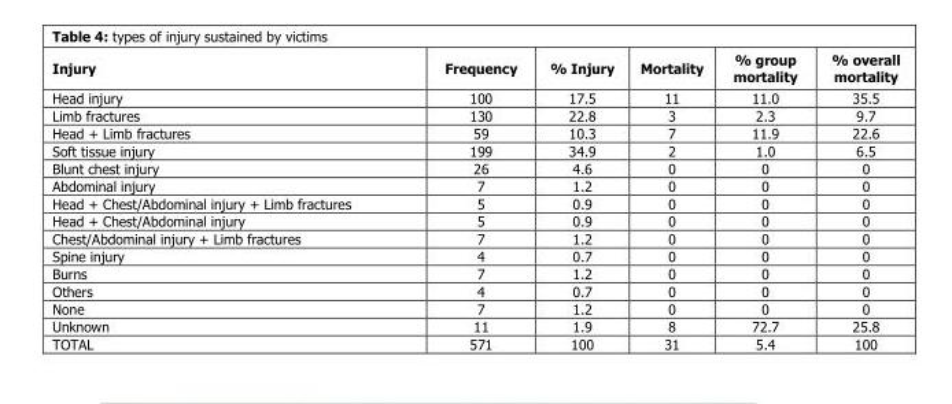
<table><thead><tr><td>Injury</td><td>Frequency</td><td>% Injury</td><td>Mortality</td><td>% group mortality</td><td>% overall mortality</td></tr></thead><tbody><tr><td>Head injury</td><td>100</td><td>17.5</td><td>11</td><td>11.0</td><td>35.5</td></tr><tr><td>Limb fractures</td><td>130</td><td>22.8</td><td>3</td><td>2.3</td><td>9.7</td></tr><tr><td>Head + Limb fractures</td><td>59</td><td>10.3</td><td>7</td><td>11.9</td><td>22.6</td></tr><tr><td>Soft tissue injury</td><td>199</td><td>34.9</td><td>2</td><td>1.0</td><td>6.5</td></tr><tr><td>Blunt chest injury</td><td>26</td><td>4.6</td><td>0</td><td>0</td><td>0</td></tr><tr><td>Abdominal injury</td><td>7</td><td>1.2</td><td>0</td><td>0</td><td>0</td></tr><tr><td>Head + Chest/Abdominal injury + Limb fractures</td><td>5</td><td>0.9</td><td>0</td><td>0</td><td>0</td></tr><tr><td>Head + Chest/Abdominal injury</td><td>5</td><td>0.9</td><td>0</td><td>0</td><td>0</td></tr><tr><td>Chest/Abdominal injury + Limb fractures</td><td>7</td><td>1.2</td><td>0</td><td>0</td><td>0</td></tr><tr><td>Spine injury</td><td>4</td><td>0.7</td><td>0</td><td>0</td><td>0</td></tr><tr><td>Burns</td><td>7</td><td>1.2</td><td>0</td><td>0</td><td>0</td></tr><tr><td>Others</td><td>4</td><td>0.7</td><td>0</td><td>0</td><td>0</td></tr><tr><td>None</td><td>7</td><td>1.2</td><td>0</td><td>0</td><td>0</td></tr><tr><td>Unknown</td><td>11</td><td>1.9</td><td>8</td><td>72.7</td><td>25.8</td></tr><tr><td>TOTAL</td><td>571</td><td>100</td><td>31</td><td>5.4</td><td>100</td></tr></tbody></table>